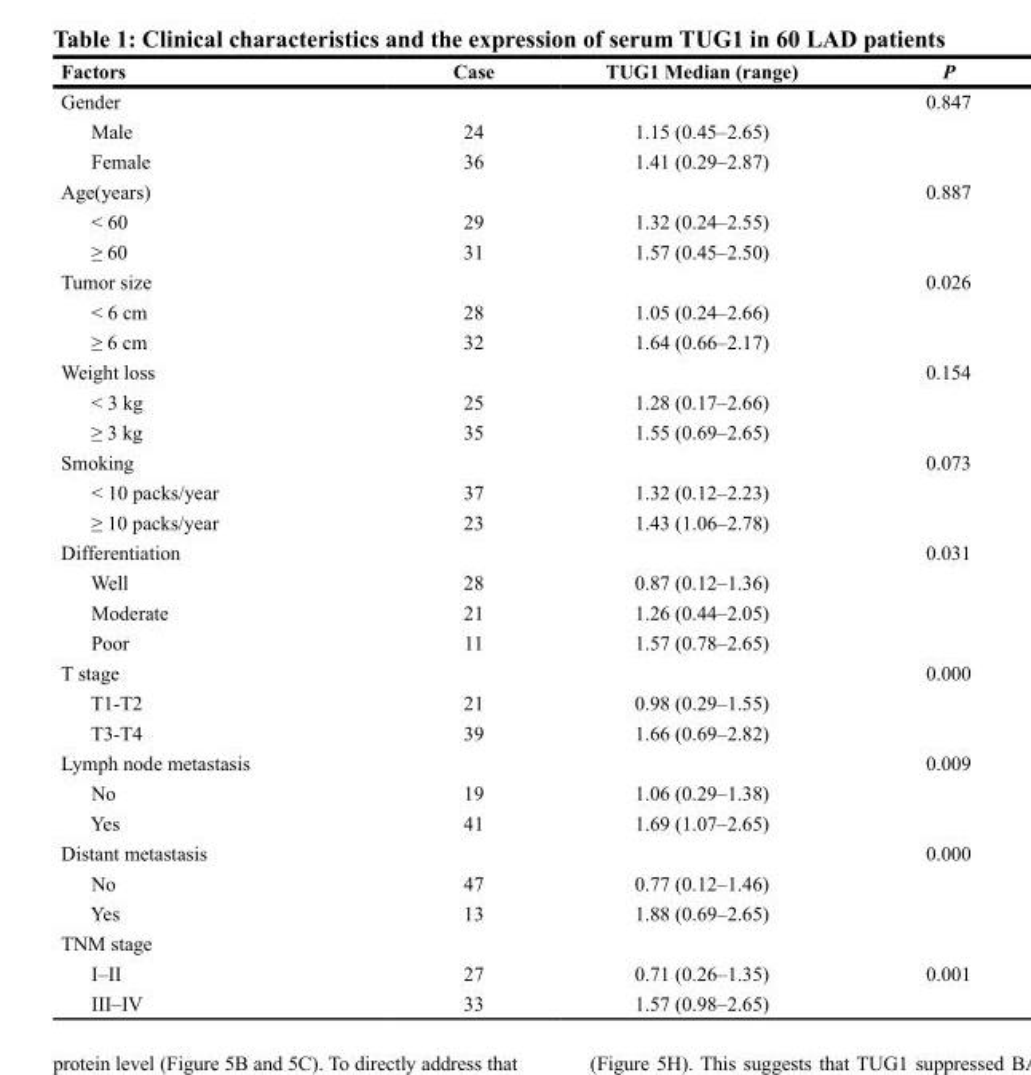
<table><thead><tr><td>Factors</td><td>Case</td><td>TUG1 Median (range)</td><td>P</td></tr></thead><tbody><tr><td>Gender</td><td></td><td></td><td>0.847</td></tr><tr><td>Male</td><td>24</td><td>1.15 (0.45–2.65)</td><td></td></tr><tr><td>Female</td><td>36</td><td>1.41 (0.29–2.87)</td><td></td></tr><tr><td>Age(years)</td><td></td><td></td><td>0.887</td></tr><tr><td>&lt; 60</td><td>29</td><td>1.32 (0.24–2.55)</td><td></td></tr><tr><td>≥ 60</td><td>31</td><td>1.57 (0.45–2.50)</td><td></td></tr><tr><td>Tumor size</td><td></td><td></td><td>0.026</td></tr><tr><td>&lt; 6 cm</td><td>28</td><td>1.05 (0.24–2.66)</td><td></td></tr><tr><td>≥ 6 cm</td><td>32</td><td>1.64 (0.66–2.17)</td><td></td></tr><tr><td>Weight loss</td><td></td><td></td><td>0.154</td></tr><tr><td>&lt; 3 kg</td><td>25</td><td>1.28 (0.17–2.66)</td><td></td></tr><tr><td>≥ 3 kg</td><td>35</td><td>1.55 (0.69–2.65)</td><td></td></tr><tr><td>Smoking</td><td></td><td></td><td>0.073</td></tr><tr><td>&lt; 10 packs/year</td><td>37</td><td>1.32 (0.12–2.23)</td><td></td></tr><tr><td>≥ 10 packs/year</td><td>23</td><td>1.43 (1.06–2.78)</td><td></td></tr><tr><td>Differentiation</td><td></td><td></td><td>0.031</td></tr><tr><td>Well</td><td>28</td><td>0.87 (0.12–1.36)</td><td></td></tr><tr><td>Moderate</td><td>21</td><td>1.26 (0.44–2.05)</td><td></td></tr><tr><td>Poor</td><td>11</td><td>1.57 (0.78–2.65)</td><td></td></tr><tr><td>T stage</td><td></td><td></td><td>0.000</td></tr><tr><td>T1-T2</td><td>21</td><td>0.98 (0.29–1.55)</td><td></td></tr><tr><td>T3-T4</td><td>39</td><td>1.66 (0.69–2.82)</td><td></td></tr><tr><td>Lymph node metastasis</td><td></td><td></td><td>0.009</td></tr><tr><td>No</td><td>19</td><td>1.06 (0.29–1.38)</td><td></td></tr><tr><td>Yes</td><td>41</td><td>1.69 (1.07–2.65)</td><td></td></tr><tr><td>Distant metastasis</td><td></td><td></td><td>0.000</td></tr><tr><td>No</td><td>47</td><td>0.77 (0.12–1.46)</td><td></td></tr><tr><td>Yes</td><td>13</td><td>1.88 (0.69–2.65)</td><td></td></tr><tr><td colspan="4">TNM stage</td></tr><tr><td>I–II</td><td>27</td><td>0.71 (0.26–1.35)</td><td>0.001</td></tr><tr><td>III–IV</td><td>33</td><td>1.57 (0.98–2.65)</td><td></td></tr></tbody></table>